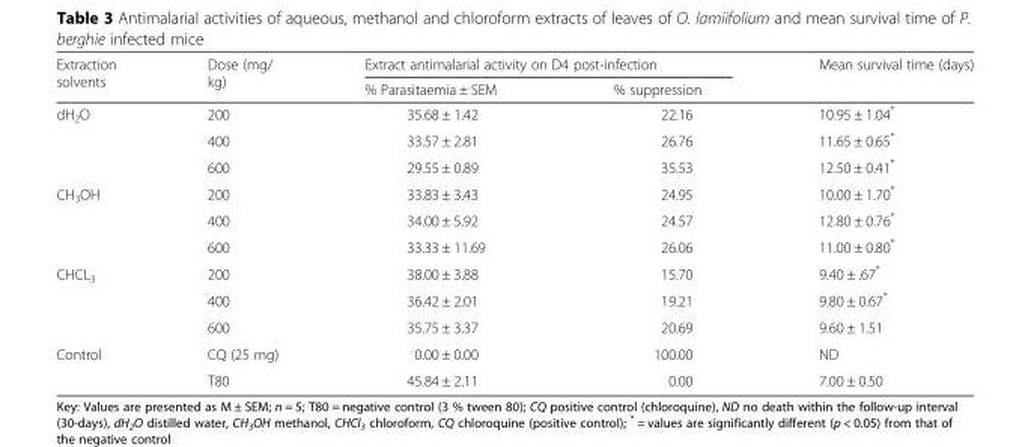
<table><thead><tr><td rowspan="2">Extraction solvents</td><td rowspan="2">Dose (mg/ kg)</td><td colspan="2">Extract antimalarial activity on D4 post-infection</td><td rowspan="2">Mean survival time (days)</td></tr><tr><td>% Parasitaemia ± SEM</td><td>% suppression</td></tr></thead><tbody><tr><td rowspan="3">dH<sub>2</sub>O</td><td>200</td><td>35.68 ± 1.42</td><td>22.16</td><td>10.95 ± 1.04*</td></tr><tr><td>400</td><td>33.57 ± 2.81</td><td>26.76</td><td>11.65 ± 0.65*</td></tr><tr><td>600</td><td>29.55 ± 0.89</td><td>35.53</td><td>12.50 ± 0.41*</td></tr><tr><td rowspan="3">CH<sub>3</sub>OH</td><td>200</td><td>33.83 ± 3.43</td><td>24.95</td><td>10.00 ± 1.70*</td></tr><tr><td>400</td><td>34.00 ± 5.92</td><td>24.57</td><td>12.80 ± 0.76*</td></tr><tr><td>600</td><td>33.33 ± 11.69</td><td>26.06</td><td>11.00 ± 0.80*</td></tr><tr><td rowspan="3">CHCL<sub>3</sub></td><td>200</td><td>38.00 ± 3.88</td><td>15.70</td><td>9.40 ± .67*</td></tr><tr><td>400</td><td>36.42 ± 2.01</td><td>19.21</td><td>9.80 ± 0.67*</td></tr><tr><td>600</td><td>35.75 ± 3.37</td><td>20.69</td><td>9.60 ± 1.51</td></tr><tr><td rowspan="2">Control</td><td>CQ (25 mg)</td><td>0.00 ± 0.00</td><td>100.00</td><td>ND</td></tr><tr><td>T80</td><td>45.84 ± 2.11</td><td>0.00</td><td>7.00 ± 0.50</td></tr></tbody></table>